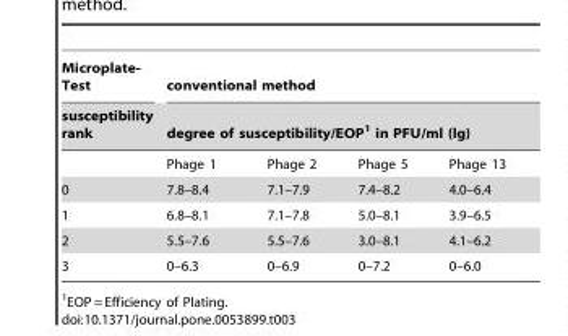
<table><thead><tr><td rowspan="3">Microplate- Test susceptibility rank</td><td rowspan="2" colspan="4">conventional method degree of susceptibility/EOP<sup>1</sup> in PFU/ml (lg)</td></tr><tr></tr><tr><td>Phage 1</td><td>Phage 2</td><td>Phage 5</td><td>Phage 13</td></tr></thead><tbody><tr><td>0</td><td>7.8–8.4</td><td>7.1–7.9</td><td>7.4–8.2</td><td>4.0–6.4</td></tr><tr><td>1</td><td>6.8–8.1</td><td>7.1–7.8</td><td>5.0–8.1</td><td>3.9–6.5</td></tr><tr><td>2</td><td>5.5–7.6</td><td>5.5–7.6</td><td>3.0–8.1</td><td>4.1–6.2</td></tr><tr><td>3</td><td>0–6.3</td><td>0–6.9</td><td>0–7.2</td><td>0–6.0</td></tr></tbody></table>